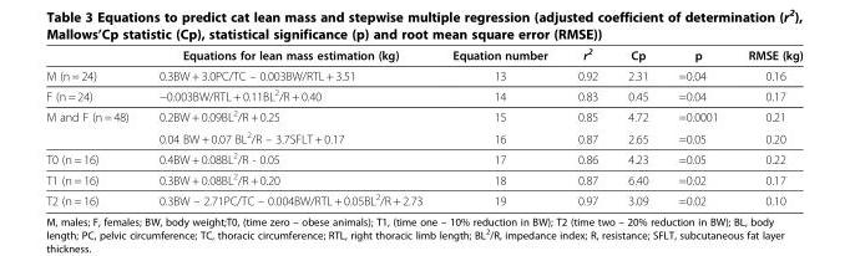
<table><thead><tr><td></td><td>Equations for lean mass estimation (kg)</td><td>Equation number</td><td>r<sup>2</sup></td><td>Cp</td><td>p</td><td>RMSE (kg)</td></tr></thead><tbody><tr><td>M (n = 24)</td><td>0.3BW + 3.0PC/TC – 0.003BW/RTL + 3.51</td><td>13</td><td>0.92</td><td>2.31</td><td>=0.04</td><td>0.16</td></tr><tr><td>F (n = 24)</td><td>−0.003BW/RTL + 0.11BL<sup>2</sup>/R + 0.40</td><td>14</td><td>0.83</td><td>0.45</td><td>=0.04</td><td>0.17</td></tr><tr><td rowspan="2">M and F (n = 48)</td><td>0.2BW + 0.09BL<sup>2</sup>/R + 0.25</td><td>15</td><td>0.85</td><td>4.72</td><td>=0.0001</td><td>0.21</td></tr><tr><td>0.04 BW + 0.07 BL<sup>2</sup>/R – 3.7SFLT + 0.17</td><td>16</td><td>0.87</td><td>2.65</td><td>=0.05</td><td>0.20</td></tr><tr><td>T0 (n = 16)</td><td>0.4BW + 0.08BL<sup>2</sup>/R - 0.05</td><td>17</td><td>0.86</td><td>4.23</td><td>=0.05</td><td>0.22</td></tr><tr><td>T1 (n = 16)</td><td>0.3BW + 0.08BL<sup>2</sup>/R + 0.20</td><td>18</td><td>0.87</td><td>6.40</td><td>=0.02</td><td>0.17</td></tr><tr><td>T2 (n = 16)</td><td>0.3BW – 2.71PC/TC – 0.004BW/RTL + 0.05BL<sup>2</sup>/R + 2.73</td><td>19</td><td>0.97</td><td>3.09</td><td>=0.02</td><td>0.10</td></tr></tbody></table>